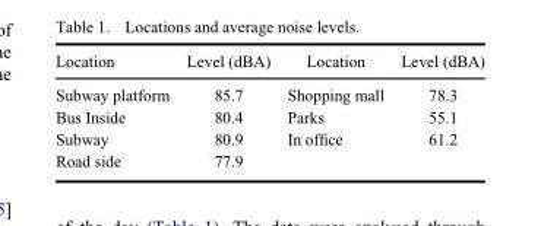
<table><thead><tr><td>Location</td><td>Level (dBA)</td><td>Location</td><td>Level (dBA)</td></tr></thead><tbody><tr><td>Subway platform</td><td>85.7</td><td>Shopping mall</td><td>78.3</td></tr><tr><td>Bus Inside</td><td>80.4</td><td>Parks</td><td>55.1</td></tr><tr><td>Subway</td><td>80.9</td><td>In office</td><td>61.2</td></tr><tr><td>Road side</td><td>77.9</td><td></td><td></td></tr></tbody></table>